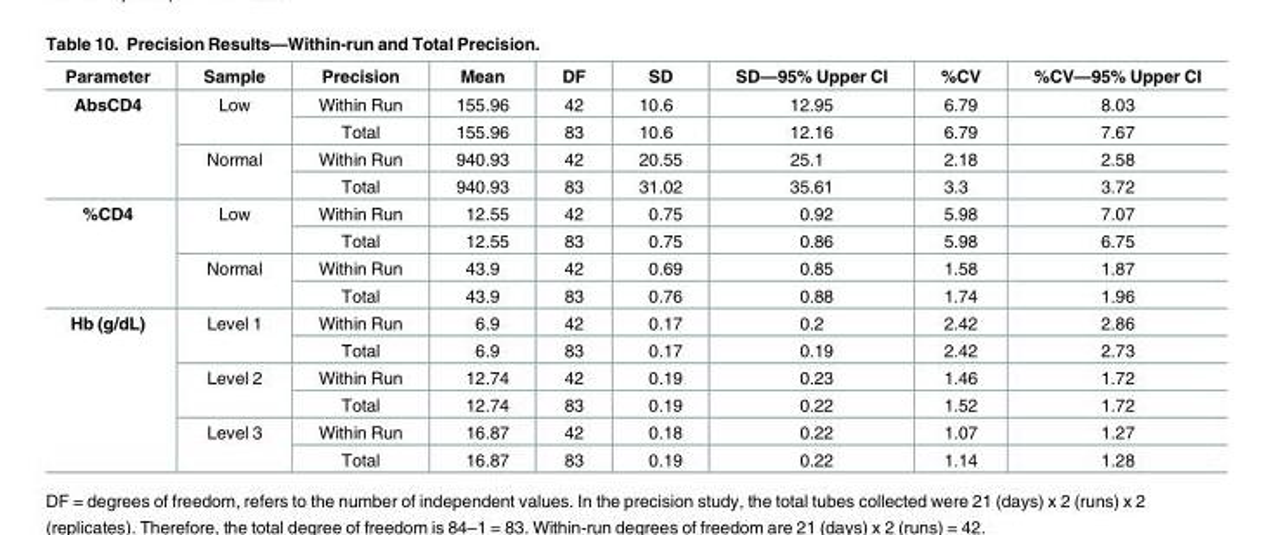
<table><thead><tr><td>Parameter</td><td>Sample</td><td>Precision</td><td>Mean</td><td>DF</td><td>SD</td><td>SD—95% Upper CI</td><td>%CV</td><td>%CV—95% Upper CI</td></tr></thead><tbody><tr><td rowspan="4">AbsCD4</td><td rowspan="2">Low</td><td>Within Run</td><td>155.96</td><td>42</td><td>10.6</td><td>12.95</td><td>6.79</td><td>8.03</td></tr><tr><td>Total</td><td>155.96</td><td>83</td><td>10.6</td><td>12.16</td><td>6.79</td><td>7.67</td></tr><tr><td rowspan="2">Normal</td><td>Within Run</td><td>940.93</td><td>42</td><td>20.55</td><td>25.1</td><td>2.18</td><td>2.58</td></tr><tr><td>Total</td><td>940.93</td><td>83</td><td>31.02</td><td>35.61</td><td>3.3</td><td>3.72</td></tr><tr><td rowspan="4">%CD4</td><td rowspan="2">Low</td><td>Within Run</td><td>12.55</td><td>42</td><td>0.75</td><td>0.92</td><td>5.98</td><td>7.07</td></tr><tr><td>Total</td><td>12.55</td><td>83</td><td>0.75</td><td>0.86</td><td>5.98</td><td>6.75</td></tr><tr><td rowspan="2">Normal</td><td>Within Run</td><td>43.9</td><td>42</td><td>0.69</td><td>0.85</td><td>1.58</td><td>1.87</td></tr><tr><td>Total</td><td>43.9</td><td>83</td><td>0.76</td><td>0.88</td><td>1.74</td><td>1.96</td></tr><tr><td rowspan="6">Hb (g/dL)</td><td rowspan="2">Level 1</td><td>Within Run</td><td>6.9</td><td>42</td><td>0.17</td><td>0.2</td><td>2.42</td><td>2.86</td></tr><tr><td>Total</td><td>6.9</td><td>83</td><td>0.17</td><td>0.19</td><td>2.42</td><td>2.73</td></tr><tr><td rowspan="2">Level 2</td><td>Within Run</td><td>12.74</td><td>42</td><td>0.19</td><td>0.23</td><td>1.46</td><td>1.72</td></tr><tr><td>Total</td><td>12.74</td><td>83</td><td>0.19</td><td>0.22</td><td>1.52</td><td>1.72</td></tr><tr><td rowspan="2">Level 3</td><td>Within Run</td><td>16.87</td><td>42</td><td>0.18</td><td>0.22</td><td>1.07</td><td>1.27</td></tr><tr><td>Total</td><td>16.87</td><td>83</td><td>0.19</td><td>0.22</td><td>1.14</td><td>1.28</td></tr></tbody></table>